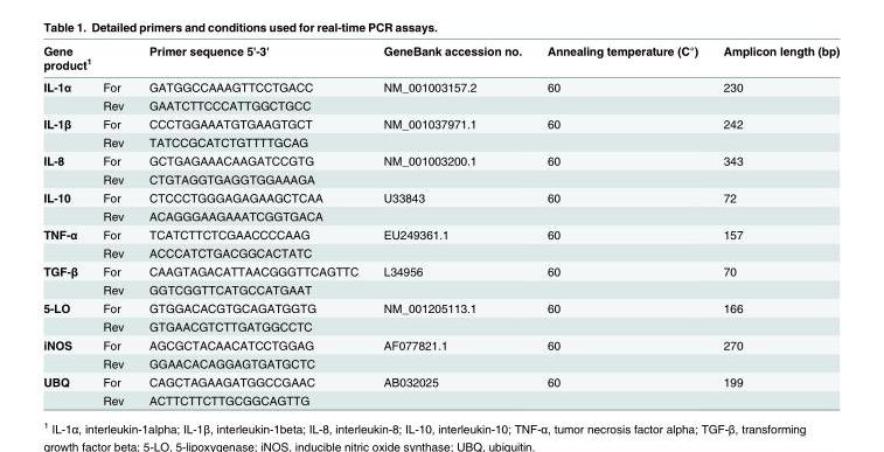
<table><thead><tr><td colspan="2">Gene product<sup>1</sup></td><td rowspan="2">Primer sequence 5&#x27;-3&#x27; GATGGCCAAAGTTCCTGACC</td><td rowspan="2">GeneBank accession no. NM_001003157.2</td><td rowspan="2">Annealing temperature (C°) 60</td><td rowspan="2">Amplicon length (bp) 230</td></tr><tr><td>IL-1α</td><td>For</td></tr></thead><tbody><tr><td></td><td>Rev</td><td>GAATCTTCCCATTGGCTGCC</td><td></td><td></td><td></td></tr><tr><td rowspan="2">IL-1β</td><td>For</td><td>CCCTGGAAATGTGAAGTGCT</td><td>NM_001037971.1</td><td>60</td><td>242</td></tr><tr><td>Rev</td><td>TATCCGCATCTGTTTTGCAG</td><td></td><td></td><td></td></tr><tr><td rowspan="2">IL-8</td><td>For</td><td>GCTGAGAAACAAGATCCGTG</td><td>NM_001003200.1</td><td>60</td><td>343</td></tr><tr><td>Rev</td><td>CTGTAGGTGAGGTGGAAAGA</td><td></td><td></td><td></td></tr><tr><td rowspan="2">IL-10</td><td>For</td><td>CTCCCTGGGAGAGAAGCTCAA</td><td>U33843</td><td>60</td><td>72</td></tr><tr><td>Rev</td><td>ACAGGGAAGAAATCGGTGACA</td><td></td><td></td><td></td></tr><tr><td rowspan="2">TNF-α</td><td>For</td><td>TCATCTTCTCGAACCCCAAG</td><td>EU249361.1</td><td>60</td><td>157</td></tr><tr><td>Rev</td><td>ACCCATCTGACGGCACTATC</td><td></td><td></td><td></td></tr><tr><td rowspan="2">TGF-β</td><td>For</td><td>CAAGTAGACATTAACGGGTTCAGTTC</td><td>L34956</td><td>60</td><td>70</td></tr><tr><td>Rev</td><td>GGTCGGTTCATGCCATGAAT</td><td></td><td></td><td></td></tr><tr><td rowspan="2">5-LO</td><td>For</td><td>GTGGACACGTGCAGATGGTG</td><td>NM_001205113.1</td><td>60</td><td>166</td></tr><tr><td>Rev</td><td>GTGAACGTCTTGATGGCCTC</td><td></td><td></td><td></td></tr><tr><td rowspan="2">iNOS</td><td>For</td><td>AGCGCTACAACATCCTGGAG</td><td>AF077821.1</td><td>60</td><td>270</td></tr><tr><td>Rev</td><td>GGAACACAGGAGTGATGCTC</td><td></td><td></td><td></td></tr><tr><td rowspan="2">UBQ</td><td>For</td><td>CAGCTAGAAGATGGCCGAAC</td><td>AB032025</td><td>60</td><td>199</td></tr><tr><td>Rev</td><td>ACTTCTTCTTGCGGCAGTTG</td><td></td><td></td><td></td></tr></tbody></table>